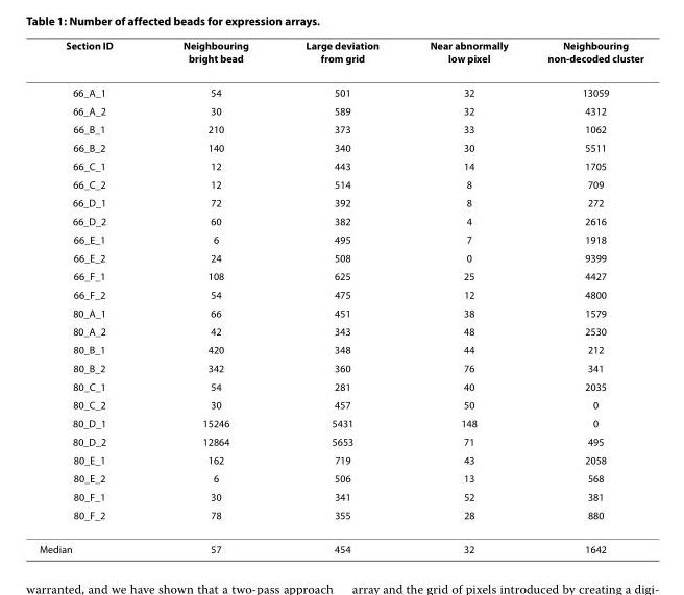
<table><thead><tr><td>Section ID</td><td>Neighbouring bright bead</td><td>Large deviation from grid</td><td>Near abnormally low pixel</td><td>Neighbouring non-decoded cluster</td></tr></thead><tbody><tr><td>66_A_1</td><td>54</td><td>501</td><td>32</td><td>13059</td></tr><tr><td>66_A_2</td><td>30</td><td>589</td><td>32</td><td>4312</td></tr><tr><td>66_B_1</td><td>210</td><td>373</td><td>33</td><td>1062</td></tr><tr><td>66_B_2</td><td>140</td><td>340</td><td>30</td><td>5511</td></tr><tr><td>66_C_1</td><td>12</td><td>443</td><td>14</td><td>1705</td></tr><tr><td>66_C_2</td><td>12</td><td>514</td><td>8</td><td>709</td></tr><tr><td>66_D_1</td><td>72</td><td>392</td><td>8</td><td>272</td></tr><tr><td>66_D_2</td><td>60</td><td>382</td><td>4</td><td>2616</td></tr><tr><td>66_E_1</td><td>6</td><td>495</td><td>7</td><td>1918</td></tr><tr><td>66_E_2</td><td>24</td><td>508</td><td>0</td><td>9399</td></tr><tr><td>66_F_1</td><td>108</td><td>625</td><td>25</td><td>4427</td></tr><tr><td>66_F_2</td><td>54</td><td>475</td><td>12</td><td>4800</td></tr><tr><td>80_A_1</td><td>66</td><td>451</td><td>38</td><td>1579</td></tr><tr><td>80_A_2</td><td>42</td><td>343</td><td>48</td><td>2530</td></tr><tr><td>80_B_1</td><td>420</td><td>348</td><td>44</td><td>212</td></tr><tr><td>80_B_2</td><td>342</td><td>360</td><td>76</td><td>341</td></tr><tr><td>80_C_1</td><td>54</td><td>281</td><td>40</td><td>2035</td></tr><tr><td>80_C_2</td><td>30</td><td>457</td><td>50</td><td>0</td></tr><tr><td>80_D_1</td><td>15246</td><td>5431</td><td>148</td><td>0</td></tr><tr><td>80_D_2</td><td>12864</td><td>5653</td><td>71</td><td>495</td></tr><tr><td>80_E_1</td><td>162</td><td>719</td><td>43</td><td>2058</td></tr><tr><td>80_E_2</td><td>6</td><td>506</td><td>13</td><td>568</td></tr><tr><td>80_F_1</td><td>30</td><td>341</td><td>52</td><td>381</td></tr><tr><td>80_F_2</td><td>78</td><td>355</td><td>28</td><td>880</td></tr><tr><td>Median</td><td>57</td><td>454</td><td>32</td><td>1642</td></tr></tbody></table>